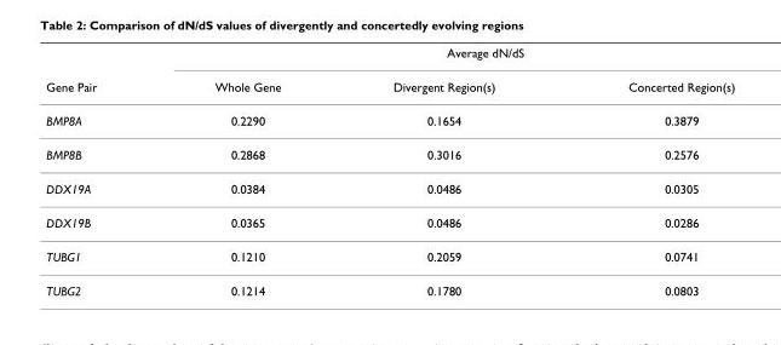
<table><thead><tr><td rowspan="2">Gene Pair</td><td colspan="3">Average dN/dS</td></tr><tr><td>Whole Gene</td><td>Divergent Region(s)</td><td>Concerted Region(s)</td></tr></thead><tbody><tr><td>BMP8A</td><td>0.2290</td><td>0.1654</td><td>0.3879</td></tr><tr><td>BMP8B</td><td>0.2868</td><td>0.3016</td><td>0.2576</td></tr><tr><td>DDX19A</td><td>0.0384</td><td>0.0486</td><td>0.0305</td></tr><tr><td>DDX19B</td><td>0.0365</td><td>0.0486</td><td>0.0286</td></tr><tr><td>TUBG1</td><td>0.1210</td><td>0.2059</td><td>0.0741</td></tr><tr><td>TUBG2</td><td>0.1214</td><td>0.1780</td><td>0.0803</td></tr></tbody></table>